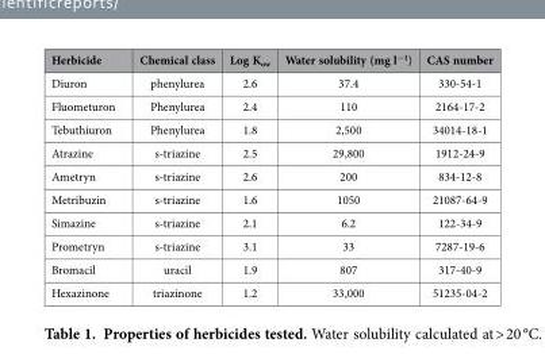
<table><thead><tr><td>Herbicide</td><td>Chemical class</td><td>Log K<sub>ow</sub></td><td>Water solubility (mg l<sup>−1</sup>)</td><td>CAS number</td></tr></thead><tbody><tr><td>Diuron</td><td>phenylurea</td><td>2.6</td><td>37.4</td><td>330-54-1</td></tr><tr><td>Fluometuron</td><td>Phenylurea</td><td>2.4</td><td>110</td><td>2164-17-2</td></tr><tr><td>Tebuthiuron</td><td>Phenylurea</td><td>1.8</td><td>2,500</td><td>34014-18-1</td></tr><tr><td>Atrazine</td><td>s-triazine</td><td>2.5</td><td>29,800</td><td>1912-24-9</td></tr><tr><td>Ametryn</td><td>s-triazine</td><td>2.6</td><td>200</td><td>834-12-8</td></tr><tr><td>Metribuzin</td><td>s-triazine</td><td>1.6</td><td>1050</td><td>21087-64-9</td></tr><tr><td>Simazine</td><td>s-triazine</td><td>2.1</td><td>6.2</td><td>122-34-9</td></tr><tr><td>Prometryn</td><td>s-triazine</td><td>3.1</td><td>33</td><td>7287-19-6</td></tr><tr><td>Bromacil</td><td>uracil</td><td>1.9</td><td>807</td><td>317-40-9</td></tr><tr><td>Hexazinone</td><td>triazinone</td><td>1.2</td><td>33,000</td><td>51235-04-2</td></tr></tbody></table>